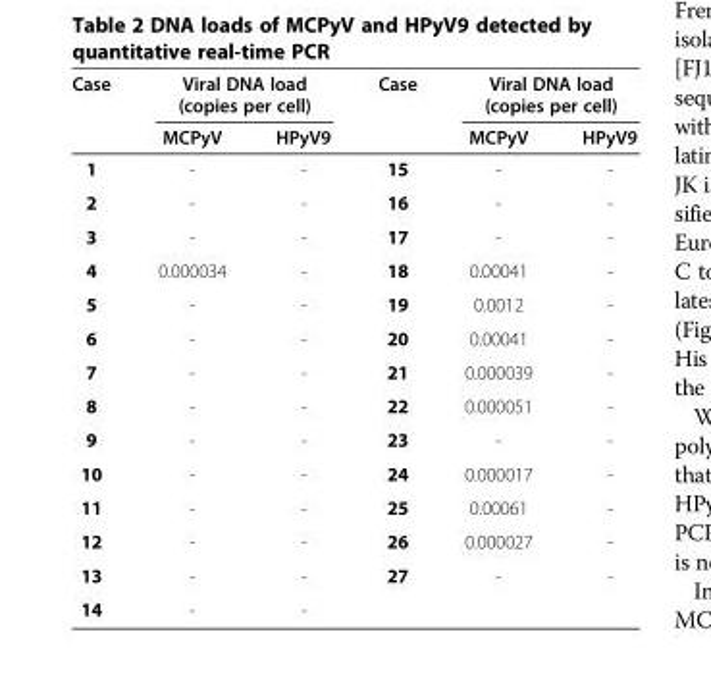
<table><thead><tr><td rowspan="2">Case</td><td colspan="2">Viral DNA load (copies per cell)</td><td rowspan="2">Case</td><td colspan="2">Viral DNA load (copies per cell)</td></tr><tr><td>MCPyV</td><td>HPyV9</td><td>MCPyV</td><td>HPyV9</td></tr></thead><tbody><tr><td>1</td><td>-</td><td>-</td><td>15</td><td>-</td><td>-</td></tr><tr><td>2</td><td>-</td><td>-</td><td>16</td><td>-</td><td>-</td></tr><tr><td>3</td><td>-</td><td>-</td><td>17</td><td>-</td><td>-</td></tr><tr><td>4</td><td>0.000034</td><td>-</td><td>18</td><td>0.00041</td><td>-</td></tr><tr><td>5</td><td>-</td><td>-</td><td>19</td><td>0.0012</td><td>-</td></tr><tr><td>6</td><td>-</td><td>-</td><td>20</td><td>0.00041</td><td>-</td></tr><tr><td>7</td><td>-</td><td>-</td><td>21</td><td>0.000039</td><td>-</td></tr><tr><td>8</td><td>-</td><td>-</td><td>22</td><td>0.000051</td><td>-</td></tr><tr><td>9</td><td>-</td><td>-</td><td>23</td><td>-</td><td>-</td></tr><tr><td>10</td><td>-</td><td>-</td><td>24</td><td>0.000017</td><td>-</td></tr><tr><td>11</td><td>-</td><td>-</td><td>25</td><td>0.00061</td><td>-</td></tr><tr><td>12</td><td>-</td><td>-</td><td>26</td><td>0.000027</td><td>-</td></tr><tr><td>13</td><td>-</td><td>-</td><td>27</td><td>-</td><td>-</td></tr><tr><td>14</td><td>-</td><td>-</td><td></td><td></td><td></td></tr></tbody></table>